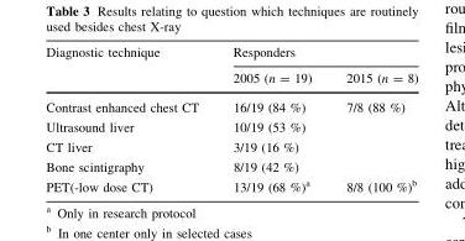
<table><thead><tr><td rowspan="2">Diagnostic technique</td><td colspan="2">Responders</td></tr><tr><td>2005 (n = 19)</td><td>2015 (n = 8)</td></tr></thead><tbody><tr><td>Contrast enhanced chest CT</td><td>16/19 (84 %)</td><td>7/8 (88 %)</td></tr><tr><td>Ultrasound liver</td><td>10/19 (53 %)</td><td></td></tr><tr><td>CT liver</td><td>3/19 (16 %)</td><td></td></tr><tr><td>Bone scintigraphy</td><td>8/19 (42 %)</td><td></td></tr><tr><td>PET(-low dose CT)</td><td>13/19 (68 %)<sup>a</sup></td><td>8/8 (100 %)<sup>b</sup></td></tr></tbody></table>